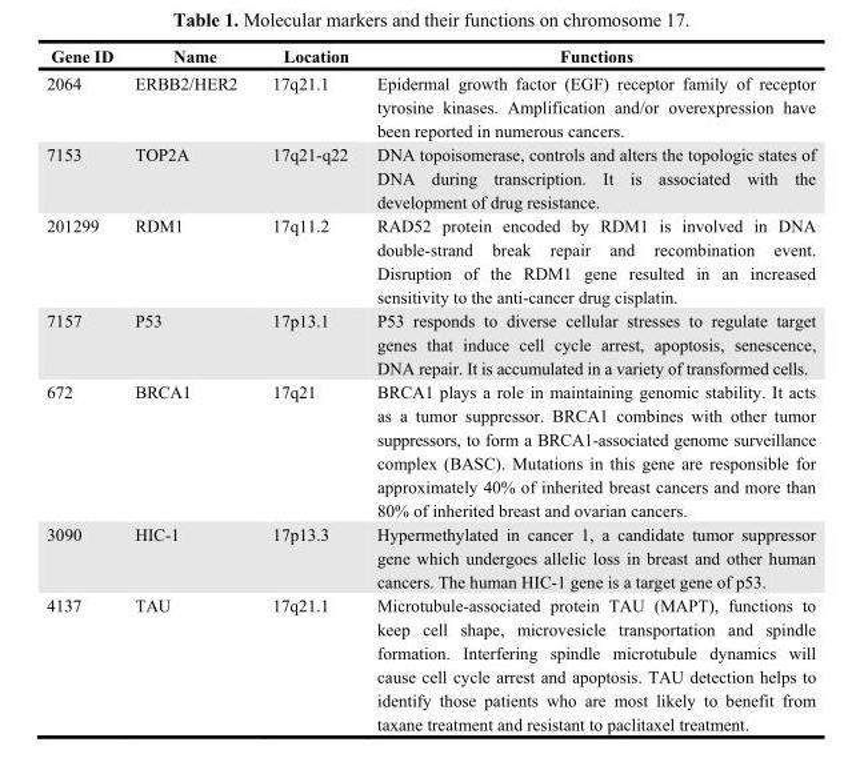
<table><thead><tr><td>Gene ID</td><td>Name</td><td>Location</td><td>Functions</td></tr></thead><tbody><tr><td>2064</td><td>ERBB2/HER2</td><td>17q21.1</td><td>Epidermal growth factor (EGF) receptor family of receptor tyrosine kinases. Amplification and/or overexpression have been reported in numerous cancers.</td></tr><tr><td>7153</td><td>TOP2A</td><td>17q21-q22</td><td>DNA topoisomerase, controls and alters the topologic states of DNA during transcription. It is associated with the development of drug resistance.</td></tr><tr><td>201299</td><td>RDM1</td><td>17q11.2</td><td>RAD52 protein encoded by RDM1 is involved in DNA double-strand break repair and recombination event. Disruption of the RDM1 gene resulted in an increased sensitivity to the anti-cancer drug cisplatin.</td></tr><tr><td>7157</td><td>P53</td><td>17p13.1</td><td>P53 responds to diverse cellular stresses to regulate target genes that induce cell cycle arrest, apoptosis, senescence, DNA repair. It is accumulated in a variety of transformed cells.</td></tr><tr><td>672</td><td>BRCA1</td><td>17q21</td><td>BRCA1 plays a role in maintaining genomic stability. It acts as a tumor suppressor. BRCA1 combines with other tumor suppressors, to form a BRCA1-associated genome surveillance complex (BASC). Mutations in this gene are responsible for approximately 40% of inherited breast cancers and more than 80% of inherited breast and ovarian cancers.</td></tr><tr><td>3090</td><td>HIC-1</td><td>17p13.3</td><td>Hypermethylated in cancer 1, a candidate tumor suppressor gene which undergoes allelic loss in breast and other human cancers. The human HIC-1 gene is a target gene of p53.</td></tr><tr><td>4137</td><td>TAU</td><td>17q21.1</td><td>Microtubule-associated protein TAU (MAPT), functions to keep cell shape, microvesicle transportation and spindle formation. Interfering spindle microtubule dynamics will cause cell cycle arrest and apoptosis. TAU detection helps to identify those patients who are most likely to benefit from taxane treatment and resistant to paclitaxel treatment.</td></tr></tbody></table>